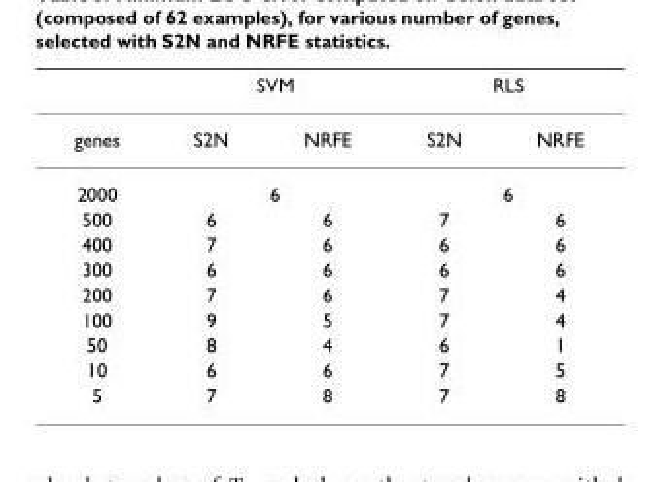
<table><thead><tr><td rowspan="2">genes</td><td colspan="2">SVM</td><td colspan="2">RLS</td></tr><tr><td>S2N</td><td>NRFE</td><td>S2N</td><td>NRFE</td></tr></thead><tbody><tr><td>2000</td><td colspan="2">6</td><td colspan="2">6</td></tr><tr><td>500</td><td>6</td><td>6</td><td>7</td><td>6</td></tr><tr><td>400</td><td>7</td><td>6</td><td>6</td><td>6</td></tr><tr><td>300</td><td>6</td><td>6</td><td>6</td><td>6</td></tr><tr><td>200</td><td>7</td><td>6</td><td>7</td><td>4</td></tr><tr><td>100</td><td>9</td><td>5</td><td>7</td><td>4</td></tr><tr><td>50</td><td>8</td><td>4</td><td>6</td><td>1</td></tr><tr><td>10</td><td>6</td><td>6</td><td>7</td><td>5</td></tr><tr><td>5</td><td>7</td><td>8</td><td>7</td><td>8</td></tr></tbody></table>